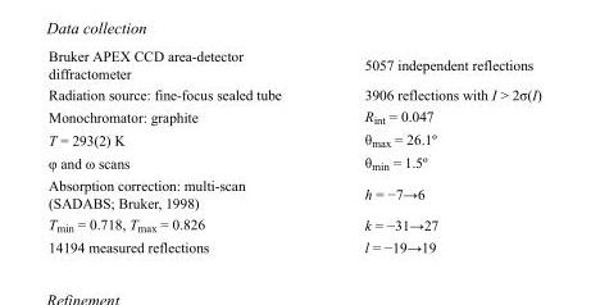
<table><tbody><tr><td>Bruker APEX CCD area-detector diffractometer</td><td>5057 independent reflections</td></tr><tr><td>Radiation source: fine-focus sealed tube</td><td>3906 reflections with I &gt; 2σ(I)</td></tr><tr><td>Monochromator: graphite</td><td>R<sub>int</sub> = 0.047</td></tr><tr><td>T = 293(2) K</td><td>θ<sub>max</sub> = 26.1º</td></tr><tr><td>φ and ω scans</td><td>θ<sub>min</sub> = 1.5º</td></tr><tr><td>Absorption correction: multi-scan (SADABS; Bruker, 1998)</td><td>h = −7→6</td></tr><tr><td>T<sub>min</sub> = 0.718, T<sub>max</sub> = 0.826</td><td>k = −31→27</td></tr><tr><td>14194 measured reflections</td><td>l = −19→19</td></tr></tbody></table>